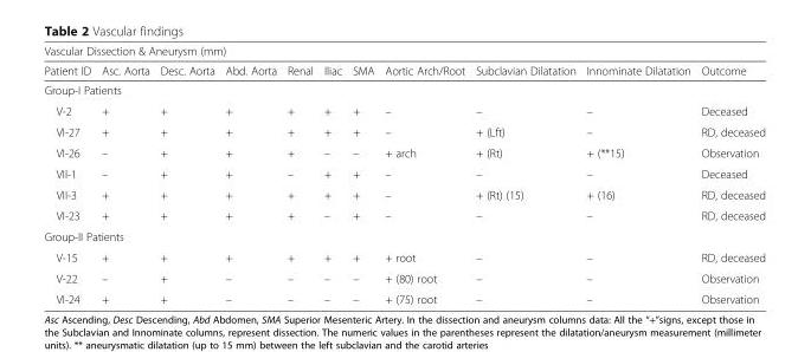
<table><thead><tr><td colspan="11">Vascular Dissection &amp; Aneurysm (mm)</td></tr><tr><td>Patient ID</td><td>Asc. Aorta</td><td>Desc. Aorta</td><td>Abd. Aorta</td><td>Renal</td><td>Iliac</td><td>SMA</td><td>Aortic Arch/Root</td><td>Subclavian Dilatation</td><td>Innominate Dilatation</td><td>Outcome</td></tr></thead><tbody><tr><td colspan="11">Group-I Patients</td></tr><tr><td>V-2</td><td>+</td><td>+</td><td>+</td><td>+</td><td>+</td><td>+</td><td>–</td><td>–</td><td>–</td><td>Deceased</td></tr><tr><td>VI-27</td><td>+</td><td>+</td><td>+</td><td>+</td><td>+</td><td>+</td><td>–</td><td>+ (Lft)</td><td>–</td><td>RD, deceased</td></tr><tr><td>VI-26</td><td>–</td><td>+</td><td>+</td><td>+</td><td>–</td><td>–</td><td>+ arch</td><td>+ (Rt)</td><td>+ (**15)</td><td>Observation</td></tr><tr><td>VII-1</td><td>–</td><td>+</td><td>+</td><td>–</td><td>+</td><td>+</td><td>–</td><td>–</td><td>–</td><td>Deceased</td></tr><tr><td>VII-3</td><td>+</td><td>+</td><td>+</td><td>+</td><td>+</td><td>+</td><td>–</td><td>+ (Rt) (15)</td><td>+ (16)</td><td>RD, deceased</td></tr><tr><td>VI-23</td><td>+</td><td>+</td><td>+</td><td>+</td><td>–</td><td>+</td><td>–</td><td>–</td><td>–</td><td>RD, deceased</td></tr><tr><td colspan="11">Group-II Patients</td></tr><tr><td>V-15</td><td>+</td><td>+</td><td>+</td><td>+</td><td>+</td><td>+</td><td>+ root</td><td>–</td><td>–</td><td>RD, deceased</td></tr><tr><td>V-22</td><td>–</td><td>+</td><td>–</td><td>–</td><td>–</td><td>–</td><td>+ (80) root</td><td>–</td><td>–</td><td>Observation</td></tr><tr><td>VI-24</td><td>+</td><td>+</td><td>–</td><td>–</td><td>–</td><td>–</td><td>+ (75) root</td><td>–</td><td>–</td><td>Observation</td></tr></tbody></table>